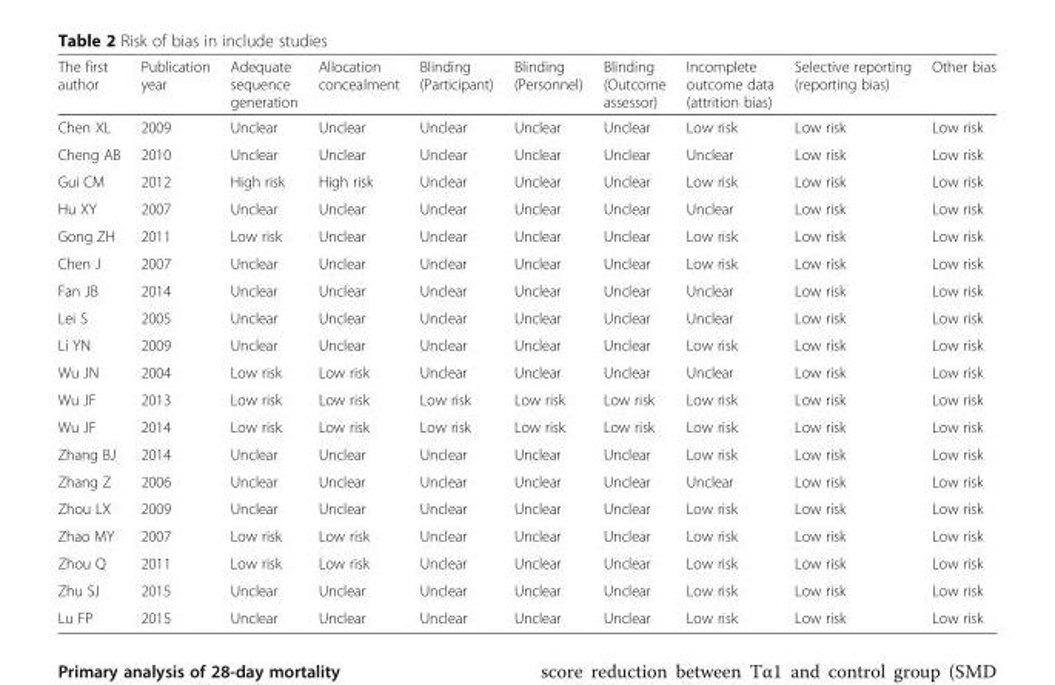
<table><thead><tr><td>The first author</td><td>Publication year</td><td>Adequate sequence generation</td><td>Allocation concealment</td><td>Blinding (Participant)</td><td>Blinding (Personnel)</td><td>Blinding (Outcome assessor)</td><td>Incomplete outcome data (attrition bias)</td><td>Selective reporting (reporting bias)</td><td>Other bias</td></tr></thead><tbody><tr><td>Chen XL</td><td>2009</td><td>Unclear</td><td>Unclear</td><td>Unclear</td><td>Unclear</td><td>Unclear</td><td>Low risk</td><td>Low risk</td><td>Low risk</td></tr><tr><td>Cheng AB</td><td>2010</td><td>Unclear</td><td>Unclear</td><td>Unclear</td><td>Unclear</td><td>Unclear</td><td>Unclear</td><td>Low risk</td><td>Low risk</td></tr><tr><td>Gui CM</td><td>2012</td><td>High risk</td><td>High risk</td><td>Unclear</td><td>Unclear</td><td>Unclear</td><td>Low risk</td><td>Low risk</td><td>Low risk</td></tr><tr><td>Hu XY</td><td>2007</td><td>Unclear</td><td>Unclear</td><td>Unclear</td><td>Unclear</td><td>Unclear</td><td>Unclear</td><td>Low risk</td><td>Low risk</td></tr><tr><td>Gong ZH</td><td>2011</td><td>Low risk</td><td>Unclear</td><td>Unclear</td><td>Unclear</td><td>Unclear</td><td>Low risk</td><td>Low risk</td><td>Low risk</td></tr><tr><td>Chen J</td><td>2007</td><td>Unclear</td><td>Unclear</td><td>Unclear</td><td>Unclear</td><td>Unclear</td><td>Low risk</td><td>Low risk</td><td>Low risk</td></tr><tr><td>Fan JB</td><td>2014</td><td>Unclear</td><td>Unclear</td><td>Unclear</td><td>Unclear</td><td>Unclear</td><td>Unclear</td><td>Low risk</td><td>Low risk</td></tr><tr><td>Lei S</td><td>2005</td><td>Unclear</td><td>Unclear</td><td>Unclear</td><td>Unclear</td><td>Unclear</td><td>Unclear</td><td>Low risk</td><td>Low risk</td></tr><tr><td>Li YN</td><td>2009</td><td>Unclear</td><td>Unclear</td><td>Unclear</td><td>Unclear</td><td>Unclear</td><td>Low risk</td><td>Low risk</td><td>Low risk</td></tr><tr><td>Wu JN</td><td>2004</td><td>Low risk</td><td>Low risk</td><td>Unclear</td><td>Unclear</td><td>Unclear</td><td>Unclear</td><td>Low risk</td><td>Low risk</td></tr><tr><td>Wu JF</td><td>2013</td><td>Low risk</td><td>Low risk</td><td>Low risk</td><td>Low risk</td><td>Low risk</td><td>Low risk</td><td>Low risk</td><td>Low risk</td></tr><tr><td>Wu JF</td><td>2014</td><td>Low risk</td><td>Low risk</td><td>Low risk</td><td>Low risk</td><td>Low risk</td><td>Low risk</td><td>Low risk</td><td>Low risk</td></tr><tr><td>Zhang BJ</td><td>2014</td><td>Unclear</td><td>Unclear</td><td>Unclear</td><td>Unclear</td><td>Unclear</td><td>Low risk</td><td>Low risk</td><td>Low risk</td></tr><tr><td>Zhang Z</td><td>2006</td><td>Unclear</td><td>Unclear</td><td>Unclear</td><td>Unclear</td><td>Unclear</td><td>Unclear</td><td>Low risk</td><td>Low risk</td></tr><tr><td>Zhou LX</td><td>2009</td><td>Unclear</td><td>Unclear</td><td>Unclear</td><td>Unclear</td><td>Unclear</td><td>Low risk</td><td>Low risk</td><td>Low risk</td></tr><tr><td>Zhao MY</td><td>2007</td><td>Low risk</td><td>Low risk</td><td>Unclear</td><td>Unclear</td><td>Unclear</td><td>Low risk</td><td>Low risk</td><td>Low risk</td></tr><tr><td>Zhou Q</td><td>2011</td><td>Low risk</td><td>Low risk</td><td>Unclear</td><td>Unclear</td><td>Unclear</td><td>Low risk</td><td>Low risk</td><td>Low risk</td></tr><tr><td>Zhu SJ</td><td>2015</td><td>Unclear</td><td>Unclear</td><td>Unclear</td><td>Unclear</td><td>Unclear</td><td>Low risk</td><td>Low risk</td><td>Low risk</td></tr><tr><td>Lu FP</td><td>2015</td><td>Unclear</td><td>Unclear</td><td>Unclear</td><td>Unclear</td><td>Unclear</td><td>Low risk</td><td>Low risk</td><td>Low risk</td></tr></tbody></table>